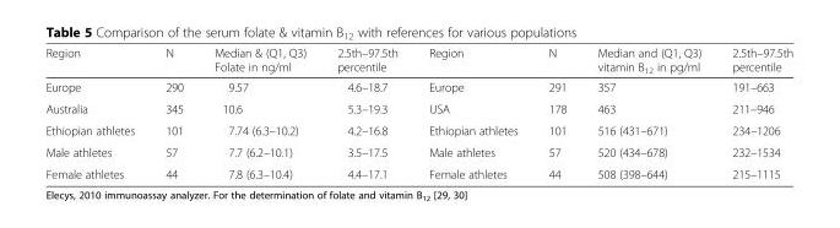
<table><thead><tr><td>Region</td><td>N</td><td>Median &amp; (Q1, Q3) Folate in ng/ml</td><td>2.5th–97.5th percentile</td><td>Region</td><td>N</td><td>Median and (Q1, Q3) vitamin B<sub>12</sub> in pg/ml</td><td>2.5th–97.5th percentile</td></tr></thead><tbody><tr><td>Europe</td><td>290</td><td>9.57</td><td>4.6–18.7</td><td>Europe</td><td>291</td><td>357</td><td>191–663</td></tr><tr><td>Australia</td><td>345</td><td>10.6</td><td>5.3–19.3</td><td>USA</td><td>178</td><td>463</td><td>211–946</td></tr><tr><td>Ethiopian athletes</td><td>101</td><td>7.74 (6.3–10.2)</td><td>4.2–16.8</td><td>Ethiopian athletes</td><td>101</td><td>516 (431–671)</td><td>234–1206</td></tr><tr><td>Male athletes</td><td>57</td><td>7.7 (6.2–10.1)</td><td>3.5–17.5</td><td>Male athletes</td><td>57</td><td>520 (434–678)</td><td>232–1534</td></tr><tr><td>Female athletes</td><td>44</td><td>7.8 (6.3–10.4)</td><td>4.4–17.1</td><td>Female athletes</td><td>44</td><td>508 (398–644)</td><td>215–1115</td></tr></tbody></table>